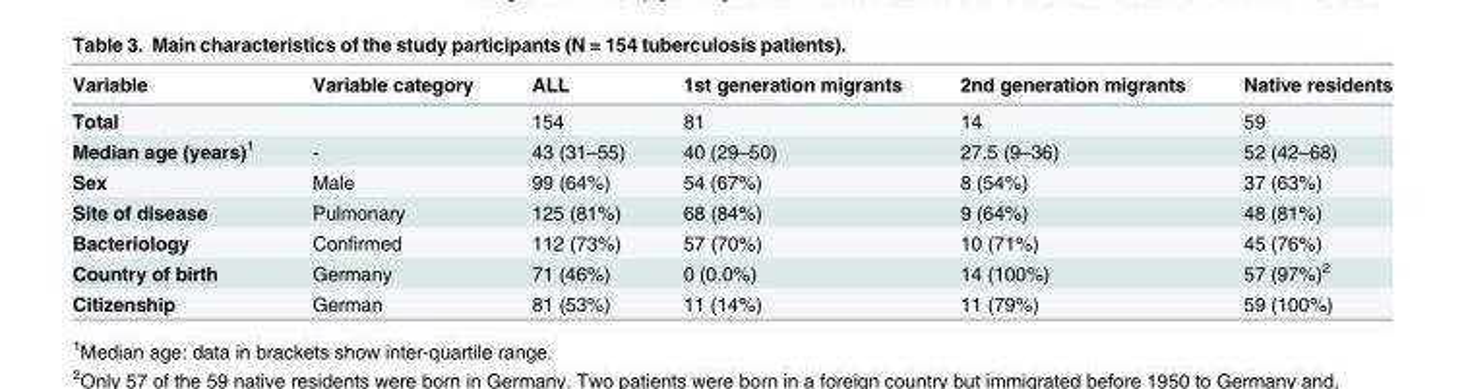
<table><thead><tr><td>Variable</td><td>Variable category</td><td>ALL</td><td>1st generation migrants</td><td>2nd generation migrants</td><td>Native residents</td></tr></thead><tbody><tr><td>Total</td><td></td><td>154</td><td>81</td><td>14</td><td>59</td></tr><tr><td>Median age (years)<sup>1</sup></td><td>-</td><td>43 (31–55)</td><td>40 (29–50)</td><td>27.5 (9–36)</td><td>52 (42–68)</td></tr><tr><td>Sex</td><td>Male</td><td>99 (64%)</td><td>54 (67%)</td><td>8 (54%)</td><td>37 (63%)</td></tr><tr><td>Site of disease</td><td>Pulmonary</td><td>125 (81%)</td><td>68 (84%)</td><td>9 (64%)</td><td>48 (81%)</td></tr><tr><td>Bacteriology</td><td>Confirmed</td><td>112 (73%)</td><td>57 (70%)</td><td>10 (71%)</td><td>45 (76%)</td></tr><tr><td>Country of birth</td><td>Germany</td><td>71 (46%)</td><td>0 (0.0%)</td><td>14 (100%)</td><td>57 (97%)<sup>2</sup></td></tr><tr><td>Citizenship</td><td>German</td><td>81 (53%)</td><td>11 (14%)</td><td>11 (79%)</td><td>59 (100%)</td></tr></tbody></table>